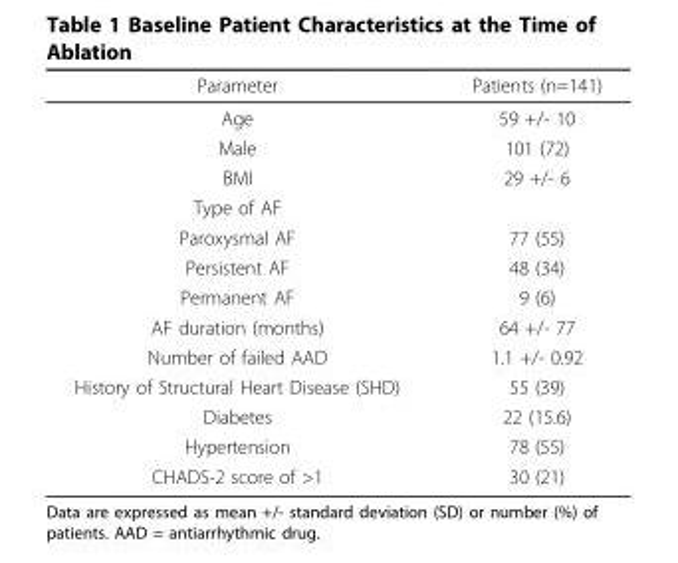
<table><thead><tr><td>Parameter</td><td>Patients (n=141)</td></tr></thead><tbody><tr><td>Age</td><td>59 +/- 10</td></tr><tr><td>Male</td><td>101 (72)</td></tr><tr><td>BMI</td><td>29 +/- 6</td></tr><tr><td colspan="2">Type of AF</td></tr><tr><td>Paroxysmal AF</td><td>77 (55)</td></tr><tr><td>Persistent AF</td><td>48 (34)</td></tr><tr><td>Permanent AF</td><td>9 (6)</td></tr><tr><td>AF duration (months)</td><td>64 +/- 77</td></tr><tr><td>Number of failed AAD</td><td>1.1 +/- 0.92</td></tr><tr><td>History of Structural Heart Disease (SHD)</td><td>55 (39)</td></tr><tr><td>Diabetes</td><td>22 (15.6)</td></tr><tr><td>Hypertension</td><td>78 (55)</td></tr><tr><td>CHADS-2 score of &gt;1</td><td>30 (21)</td></tr></tbody></table>